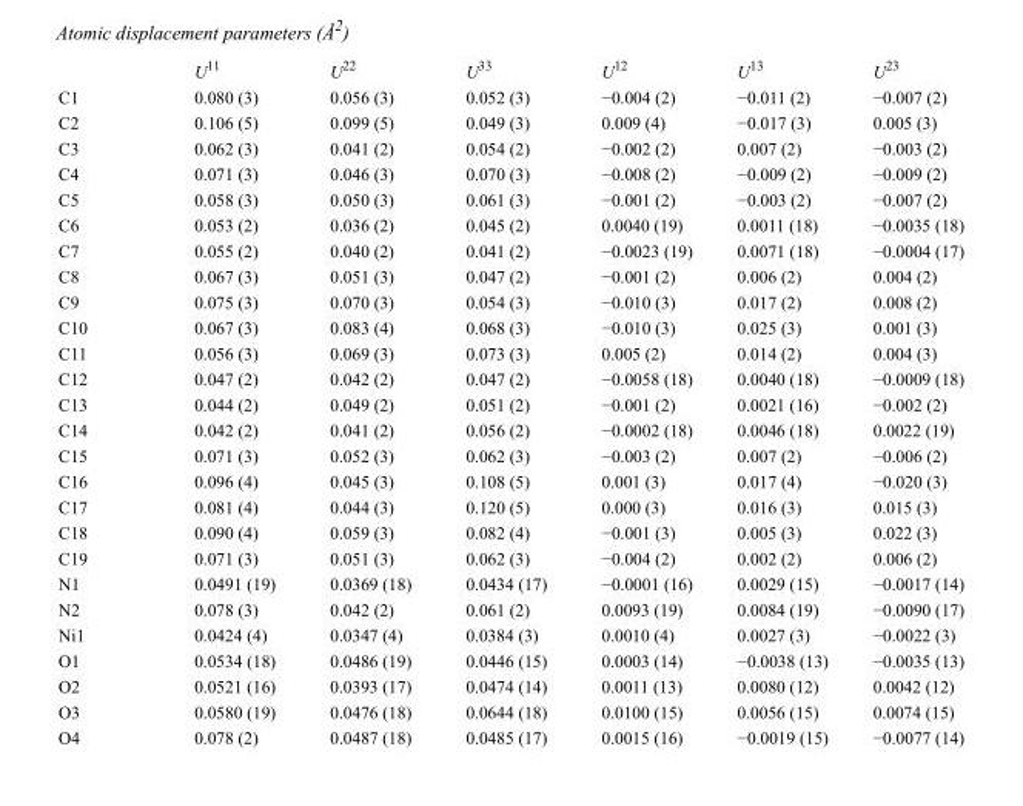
<table><thead><tr><td></td><td>U<sup>11</sup></td><td>U<sup>22</sup></td><td>U<sup>33</sup></td><td>U<sup>12</sup></td><td>U<sup>13</sup></td><td>U<sup>23</sup></td></tr></thead><tbody><tr><td>C1</td><td>0.080 (3)</td><td>0.056 (3)</td><td>0.052 (3)</td><td>−0.004 (2)</td><td>−0.011 (2)</td><td>−0.007 (2)</td></tr><tr><td>C2</td><td>0.106 (5)</td><td>0.099 (5)</td><td>0.049 (3)</td><td>0.009 (4)</td><td>−0.017 (3)</td><td>0.005 (3)</td></tr><tr><td>C3</td><td>0.062 (3)</td><td>0.041 (2)</td><td>0.054 (2)</td><td>−0.002 (2)</td><td>0.007 (2)</td><td>−0.003 (2)</td></tr><tr><td>C4</td><td>0.071 (3)</td><td>0.046 (3)</td><td>0.070 (3)</td><td>−0.008 (2)</td><td>−0.009 (2)</td><td>−0.009 (2)</td></tr><tr><td>C5</td><td>0.058 (3)</td><td>0.050 (3)</td><td>0.061 (3)</td><td>−0.001 (2)</td><td>−0.003 (2)</td><td>−0.007 (2)</td></tr><tr><td>C6</td><td>0.053 (2)</td><td>0.036 (2)</td><td>0.045 (2)</td><td>0.0040 (19)</td><td>0.0011 (18)</td><td>−0.0035 (18)</td></tr><tr><td>C7</td><td>0.055 (2)</td><td>0.040 (2)</td><td>0.041 (2)</td><td>−0.0023 (19)</td><td>0.0071 (18)</td><td>−0.0004 (17)</td></tr><tr><td>C8</td><td>0.067 (3)</td><td>0.051 (3)</td><td>0.047 (2)</td><td>−0.001 (2)</td><td>0.006 (2)</td><td>0.004 (2)</td></tr><tr><td>C9</td><td>0.075 (3)</td><td>0.070 (3)</td><td>0.054 (3)</td><td>−0.010 (3)</td><td>0.017 (2)</td><td>0.008 (2)</td></tr><tr><td>C10</td><td>0.067 (3)</td><td>0.083 (4)</td><td>0.068 (3)</td><td>−0.010 (3)</td><td>0.025 (3)</td><td>0.001 (3)</td></tr><tr><td>C11</td><td>0.056 (3)</td><td>0.069 (3)</td><td>0.073 (3)</td><td>0.005 (2)</td><td>0.014 (2)</td><td>0.004 (3)</td></tr><tr><td>C12</td><td>0.047 (2)</td><td>0.042 (2)</td><td>0.047 (2)</td><td>−0.0058 (18)</td><td>0.0040 (18)</td><td>−0.0009 (18)</td></tr><tr><td>C13</td><td>0.044 (2)</td><td>0.049 (2)</td><td>0.051 (2)</td><td>−0.001 (2)</td><td>0.0021 (16)</td><td>−0.002 (2)</td></tr><tr><td>C14</td><td>0.042 (2)</td><td>0.041 (2)</td><td>0.056 (2)</td><td>−0.0002 (18)</td><td>0.0046 (18)</td><td>0.0022 (19)</td></tr><tr><td>C15</td><td>0.071 (3)</td><td>0.052 (3)</td><td>0.062 (3)</td><td>−0.003 (2)</td><td>0.007 (2)</td><td>−0.006 (2)</td></tr><tr><td>C16</td><td>0.096 (4)</td><td>0.045 (3)</td><td>0.108 (5)</td><td>0.001 (3)</td><td>0.017 (4)</td><td>−0.020 (3)</td></tr><tr><td>C17</td><td>0.081 (4)</td><td>0.044 (3)</td><td>0.120 (5)</td><td>0.000 (3)</td><td>0.016 (3)</td><td>0.015 (3)</td></tr><tr><td>C18</td><td>0.090 (4)</td><td>0.059 (3)</td><td>0.082 (4)</td><td>−0.001 (3)</td><td>0.005 (3)</td><td>0.022 (3)</td></tr><tr><td>C19</td><td>0.071 (3)</td><td>0.051 (3)</td><td>0.062 (3)</td><td>−0.004 (2)</td><td>0.002 (2)</td><td>0.006 (2)</td></tr><tr><td>N1</td><td>0.0491 (19)</td><td>0.0369 (18)</td><td>0.0434 (17)</td><td>−0.0001 (16)</td><td>0.0029 (15)</td><td>−0.0017 (14)</td></tr><tr><td>N2</td><td>0.078 (3)</td><td>0.042 (2)</td><td>0.061 (2)</td><td>0.0093 (19)</td><td>0.0084 (19)</td><td>−0.0090 (17)</td></tr><tr><td>Ni1</td><td>0.0424 (4)</td><td>0.0347 (4)</td><td>0.0384 (3)</td><td>0.0010 (4)</td><td>0.0027 (3)</td><td>−0.0022 (3)</td></tr><tr><td>O1</td><td>0.0534 (18)</td><td>0.0486 (19)</td><td>0.0446 (15)</td><td>0.0003 (14)</td><td>−0.0038 (13)</td><td>−0.0035 (13)</td></tr><tr><td>O2</td><td>0.0521 (16)</td><td>0.0393 (17)</td><td>0.0474 (14)</td><td>0.0011 (13)</td><td>0.0080 (12)</td><td>0.0042 (12)</td></tr><tr><td>O3</td><td>0.0580 (19)</td><td>0.0476 (18)</td><td>0.0644 (18)</td><td>0.0100 (15)</td><td>0.0056 (15)</td><td>0.0074 (15)</td></tr><tr><td>O4</td><td>0.078 (2)</td><td>0.0487 (18)</td><td>0.0485 (17)</td><td>0.0015 (16)</td><td>−0.0019 (15)</td><td>−0.0077 (14)</td></tr></tbody></table>